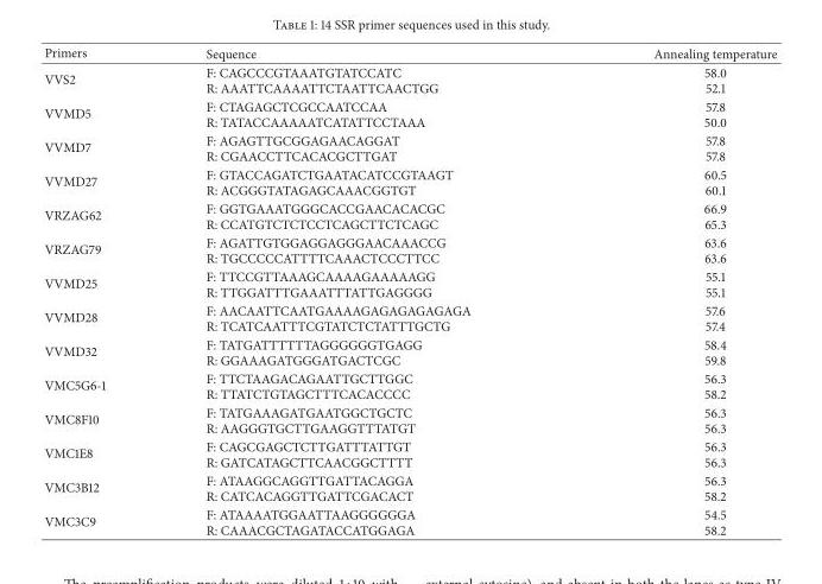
<table><thead><tr><td>Primers</td><td>Sequence</td><td>Annealing temperature</td></tr></thead><tbody><tr><td>VVS2</td><td>F: CAGCCCGTAAATGTATCCATC R: AAATTCAAAATTCTAATTCAACTGG</td><td>58.0 52.1</td></tr><tr><td>VVMD5</td><td>F: CTAGAGCTCGCCAATCCAA R: TATACCAAAAATCATATTCCTAAA</td><td>57.8 50.0</td></tr><tr><td>VVMD7</td><td>F: AGAGTTGCGGAGAACAGGAT R: CGAACCTTCACACGCTTGAT</td><td>57.8 57.8</td></tr><tr><td>VVMD27</td><td>F: GTACCAGATCTGAATACATCCGTAAGT R: ACGGGTATAGAGCAAACGGTGT</td><td>60.5 60.1</td></tr><tr><td>VRZAG62</td><td>F: GGTGAAATGGGCACCGAACACACGC R: CCATGTCTCTCCTCAGCTTCTCAGC</td><td>66.9 65.3</td></tr><tr><td>VRZAG79</td><td>F: AGATTGTGGAGGAGGGAACAAACCG R: TGCCCCCATTTTCAAACTCCCTTCC</td><td>63.6 63.6</td></tr><tr><td>VVMD25</td><td>F: TTCCGTTAAAGCAAAAGAAAAAGG R: TTGGATTTGAAATTTATTGAGGGG</td><td>55.1 55.1</td></tr><tr><td>VVMD28</td><td>F: AACAATTCAATGAAAAGAGAGAGAGAGA R: TCATCAATTTCGTATCTCTATTTGCTG</td><td>57.6 57.4</td></tr><tr><td>VVMD32</td><td>F: TATGATTTTTTAGGGGGGTGAGG R: GGAAAGATGGGATGACTCGC</td><td>58.4 59.8</td></tr><tr><td>VMC5G6-1</td><td>F: TTCTAAGACAGAATTGCTTGGC R: TTATCTGTAGCTTTCACACCCC</td><td>56.3 58.2</td></tr><tr><td>VMC8F10</td><td>F: TATGAAAGATGAATGGCTGCTC R: AAGGGTGCTTGAAGGTTTATGT</td><td>56.3 56.3</td></tr><tr><td>VMC1E8</td><td>F: CAGCGAGCTCTTGATTTATTGT R: GATCATAGCTTCAACGGCTTTT</td><td>56.3 56.3</td></tr><tr><td>VMC3B12</td><td>F: ATAAGGCAGGTTGATTACAGGA R: CATCACAGGTTGATTCGACACT</td><td>56.3 58.2</td></tr><tr><td>VMC3C9</td><td>F: ATAAAATGGAATTAAGGGGGGA R: CAAACGCTAGATACCATGGAGA</td><td>54.5 58.2</td></tr></tbody></table>